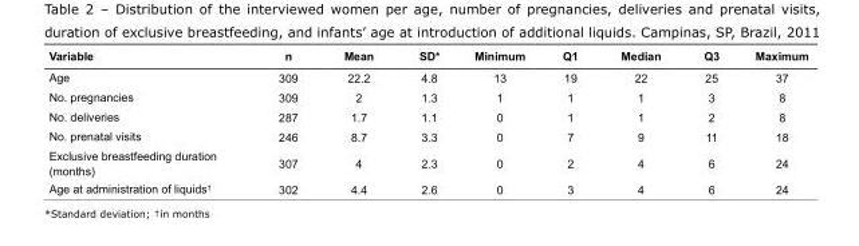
<table><thead><tr><td>Variable</td><td>n</td><td>Mean</td><td>SD*</td><td>Minimum</td><td>Q1</td><td>Median</td><td>Q3</td><td>Maximum</td></tr></thead><tbody><tr><td>Age</td><td>309</td><td>22.2</td><td>4.8</td><td>13</td><td>19</td><td>22</td><td>25</td><td>37</td></tr><tr><td>No. pregnancies</td><td>309</td><td>2</td><td>1.3</td><td>1</td><td>1</td><td>1</td><td>3</td><td>8</td></tr><tr><td>No. deliveries</td><td>287</td><td>1.7</td><td>1.1</td><td>0</td><td>1</td><td>1</td><td>2</td><td>8</td></tr><tr><td>No. prenatal visits</td><td>246</td><td>8.7</td><td>3.3</td><td>0</td><td>7</td><td>9</td><td>11</td><td>18</td></tr><tr><td>Exclusive breastfeeding duration (months)</td><td>307</td><td>4</td><td>2.3</td><td>0</td><td>2</td><td>4</td><td>6</td><td>24</td></tr><tr><td>Age at administration of liquids<sup>†</sup></td><td>302</td><td>4.4</td><td>2.6</td><td>0</td><td>3</td><td>4</td><td>6</td><td>24</td></tr></tbody></table>